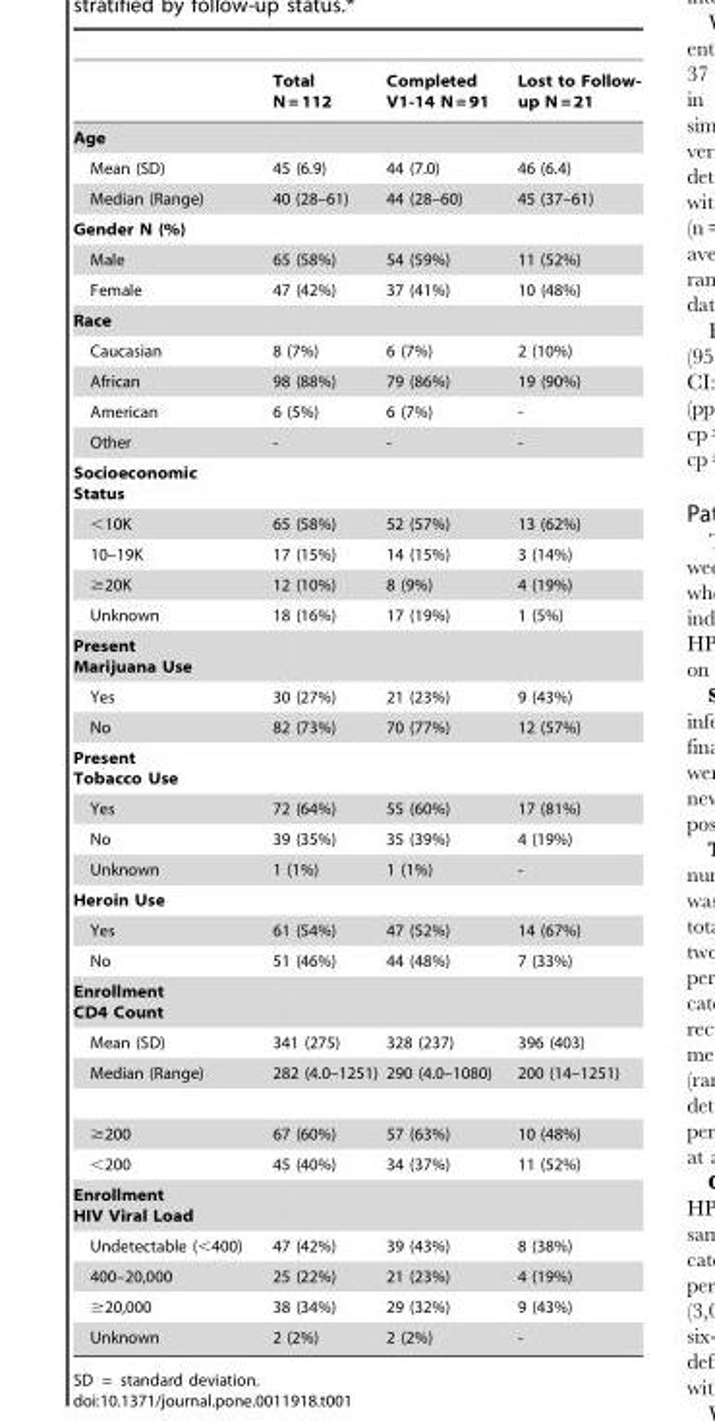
<table><thead><tr><td></td><td>Total N = 112</td><td>Completed V1-14 N = 91</td><td>Lost to Follow- up N = 21</td></tr></thead><tbody><tr><td colspan="4">Age</td></tr><tr><td>Mean (SD)</td><td>45 (6.9)</td><td>44 (7.0)</td><td>46 (6.4)</td></tr><tr><td>Median (Range)</td><td>40 (28–61)</td><td>44 (28–60)</td><td>45 (37–61)</td></tr><tr><td colspan="4">Gender N (%)</td></tr><tr><td>Male</td><td>65 (58%)</td><td>54 (59%)</td><td>11 (52%)</td></tr><tr><td>Female</td><td>47 (42%)</td><td>37 (41%)</td><td>10 (48%)</td></tr><tr><td colspan="4">Race</td></tr><tr><td>Caucasian</td><td>8 (7%)</td><td>6 (7%)</td><td>2 (10%)</td></tr><tr><td>African</td><td>98 (88%)</td><td>79 (86%)</td><td>19 (90%)</td></tr><tr><td>American</td><td>6 (5%)</td><td>6 (7%)</td><td>-</td></tr><tr><td>Other</td><td>-</td><td>-</td><td>-</td></tr><tr><td colspan="4">Socioeconomic Status</td></tr><tr><td>&lt;10K</td><td>65 (58%)</td><td>52 (57%)</td><td>13 (62%)</td></tr><tr><td>10–19K</td><td>17 (15%)</td><td>14 (15%)</td><td>3 (14%)</td></tr><tr><td>≥20K</td><td>12 (10%)</td><td>8 (9%)</td><td>4 (19%)</td></tr><tr><td>Unknown</td><td>18 (16%)</td><td>17 (19%)</td><td>1 (5%)</td></tr><tr><td colspan="4">Present Marijuana Use</td></tr><tr><td>Yes</td><td>30 (27%)</td><td>21 (23%)</td><td>9 (43%)</td></tr><tr><td>No</td><td>82 (73%)</td><td>70 (77%)</td><td>12 (57%)</td></tr><tr><td colspan="4">Present Tobacco Use</td></tr><tr><td>Yes</td><td>72 (64%)</td><td>55 (60%)</td><td>17 (81%)</td></tr><tr><td>No</td><td>39 (35%)</td><td>35 (39%)</td><td>4 (19%)</td></tr><tr><td>Unknown</td><td>1 (1%)</td><td>1 (1%)</td><td>-</td></tr><tr><td colspan="4">Heroin Use</td></tr><tr><td>Yes</td><td>61 (54%)</td><td>47 (52%)</td><td>14 (67%)</td></tr><tr><td>No</td><td>51 (46%)</td><td>44 (48%)</td><td>7 (33%)</td></tr><tr><td colspan="4">Enrollment CD4 Count</td></tr><tr><td>Mean (SD)</td><td>341 (275)</td><td>328 (237)</td><td>396 (403)</td></tr><tr><td>Median (Range)</td><td>282 (4.0–1251)</td><td>290 (4.0–1080)</td><td>200 (14–1251)</td></tr><tr><td>≥200</td><td>67 (60%)</td><td>57 (63%)</td><td>10 (48%)</td></tr><tr><td>&lt;200</td><td>45 (40%)</td><td>34 (37%)</td><td>11 (52%)</td></tr><tr><td colspan="4">Enrollment HIV Viral Load</td></tr><tr><td>Undetectable (&lt;400)</td><td>47 (42%)</td><td>39 (43%)</td><td>8 (38%)</td></tr><tr><td>400–20,000</td><td>25 (22%)</td><td>21 (23%)</td><td>4 (19%)</td></tr><tr><td>≥20,000</td><td>38 (34%)</td><td>29 (32%)</td><td>9 (43%)</td></tr><tr><td>Unknown</td><td>2 (2%)</td><td>2 (2%)</td><td>-</td></tr></tbody></table>